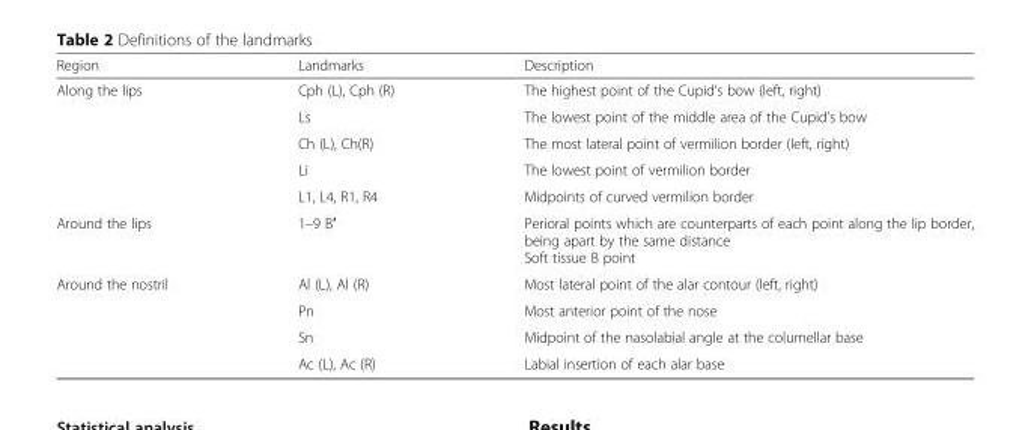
<table><thead><tr><td>Region</td><td>Landmarks</td><td>Description</td></tr></thead><tbody><tr><td rowspan="5">Along the lips</td><td>Cph (L), Cph (R)</td><td>The highest point of the Cupid’s bow (left, right)</td></tr><tr><td>Ls</td><td>The lowest point of the middle area of the Cupid’s bow</td></tr><tr><td>Ch (L), Ch(R)</td><td>The most lateral point of vermilion border (left, right)</td></tr><tr><td>Li</td><td>The lowest point of vermilion border</td></tr><tr><td>L1, L4, R1, R4</td><td>Midpoints of curved vermilion border</td></tr><tr><td>Around the lips</td><td>1–9 B′</td><td>Perioral points which are counterparts of each point along the lip border, being apart by the same distance Soft tissue B point</td></tr><tr><td rowspan="4">Around the nostril</td><td>Al (L), Al (R)</td><td>Most lateral point of the alar contour (left, right)</td></tr><tr><td>Pn</td><td>Most anterior point of the nose</td></tr><tr><td>Sn</td><td>Midpoint of the nasolabial angle at the columellar base</td></tr><tr><td>Ac (L), Ac (R)</td><td>Labial insertion of each alar base</td></tr></tbody></table>